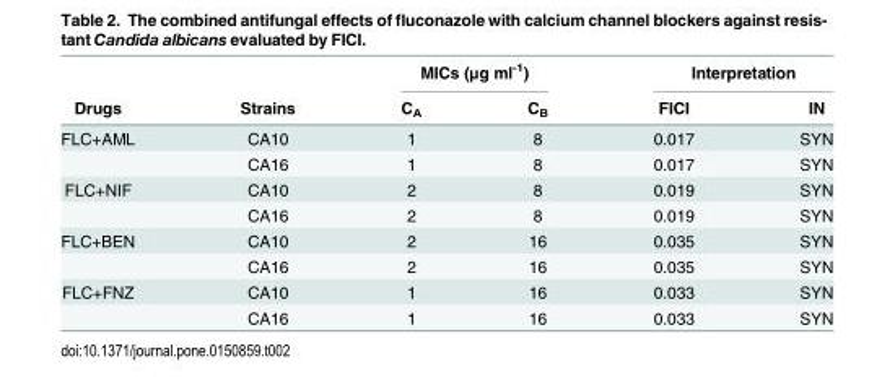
<table><thead><tr><td rowspan="2">Drugs</td><td rowspan="2">Strains</td><td colspan="2">MICs (μg ml<sup>-1</sup>)</td><td colspan="2">Interpretation</td></tr><tr><td>C<sub>A</sub></td><td>C<sub>B</sub></td><td>FICI</td><td>IN</td></tr></thead><tbody><tr><td rowspan="2">FLC+AML</td><td>CA10</td><td>1</td><td>8</td><td>0.017</td><td>SYN</td></tr><tr><td>CA16</td><td>1</td><td>8</td><td>0.017</td><td>SYN</td></tr><tr><td rowspan="2">FLC+NIF</td><td>CA10</td><td>2</td><td>8</td><td>0.019</td><td>SYN</td></tr><tr><td>CA16</td><td>2</td><td>8</td><td>0.019</td><td>SYN</td></tr><tr><td rowspan="2">FLC+BEN</td><td>CA10</td><td>2</td><td>16</td><td>0.035</td><td>SYN</td></tr><tr><td>CA16</td><td>2</td><td>16</td><td>0.035</td><td>SYN</td></tr><tr><td rowspan="2">FLC+FNZ</td><td>CA10</td><td>1</td><td>16</td><td>0.033</td><td>SYN</td></tr><tr><td>CA16</td><td>1</td><td>16</td><td>0.033</td><td>SYN</td></tr></tbody></table>